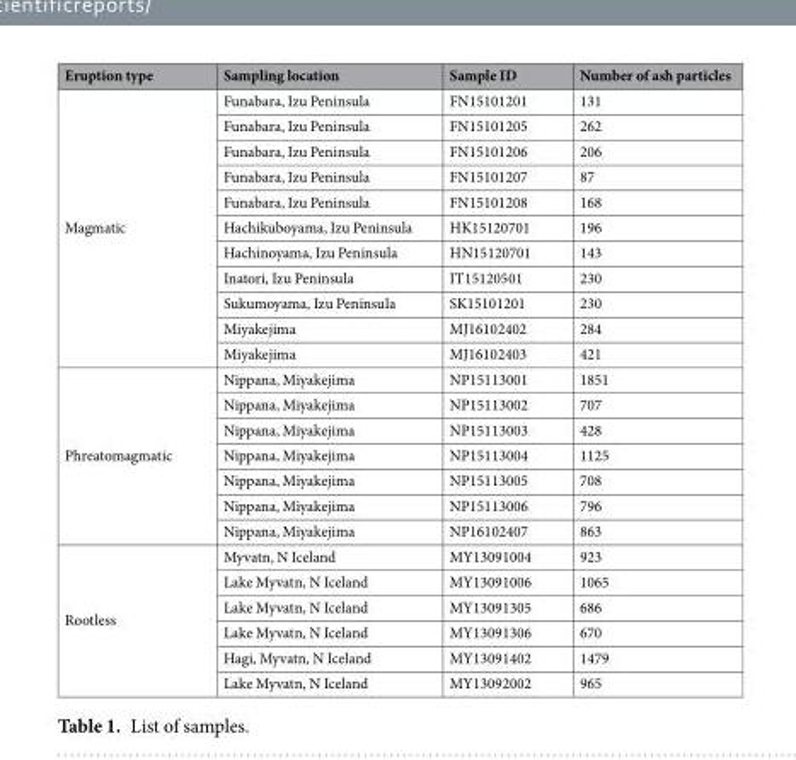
<table><thead><tr><td>Eruption type</td><td>Sampling location</td><td>Sample ID</td><td>Number of ash particles</td></tr></thead><tbody><tr><td rowspan="11">Magmatic</td><td>Funabara, Izu Peninsula</td><td>FN15101201</td><td>131</td></tr><tr><td>Funabara, Izu Peninsula</td><td>FN15101205</td><td>262</td></tr><tr><td>Funabara, Izu Peninsula</td><td>FN15101206</td><td>206</td></tr><tr><td>Funabara, Izu Peninsula</td><td>FN15101207</td><td>87</td></tr><tr><td>Funabara, Izu Peninsula</td><td>FN15101208</td><td>168</td></tr><tr><td>Hachikuboyama, Izu Peninsula</td><td>HK15120701</td><td>196</td></tr><tr><td>Hachinoyama, Izu Peninsula</td><td>HN15120701</td><td>143</td></tr><tr><td>Inatori, Izu Peninsula</td><td>IT15120501</td><td>230</td></tr><tr><td>Sukumoyama, Izu Peninsula</td><td>SK15101201</td><td>230</td></tr><tr><td>Miyakejima</td><td>MJ16102402</td><td>284</td></tr><tr><td>Miyakejima</td><td>MJ16102403</td><td>421</td></tr><tr><td rowspan="7">Phreatomagmatic</td><td>Nippana, Miyakejima</td><td>NP15113001</td><td>1851</td></tr><tr><td>Nippana, Miyakejima</td><td>NP15113002</td><td>707</td></tr><tr><td>Nippana, Miyakejima</td><td>NP15113003</td><td>428</td></tr><tr><td>Nippana, Miyakejima</td><td>NP15113004</td><td>1125</td></tr><tr><td>Nippana, Miyakejima</td><td>NP15113005</td><td>708</td></tr><tr><td>Nippana, Miyakejima</td><td>NP15113006</td><td>796</td></tr><tr><td>Nippana, Miyakejima</td><td>NP16102407</td><td>863</td></tr><tr><td rowspan="6">Rootless</td><td>Myvatn, N Iceland</td><td>MY13091004</td><td>923</td></tr><tr><td>Lake Myvatn, N Iceland</td><td>MY13091006</td><td>1065</td></tr><tr><td>Lake Myvatn, N Iceland</td><td>MY13091305</td><td>686</td></tr><tr><td>Lake Myvatn, N Iceland</td><td>MY13091306</td><td>670</td></tr><tr><td>Hagi, Myvatn, N Iceland</td><td>MY13091402</td><td>1479</td></tr><tr><td>Lake Myvatn, N Iceland</td><td>MY13092002</td><td>965</td></tr></tbody></table>